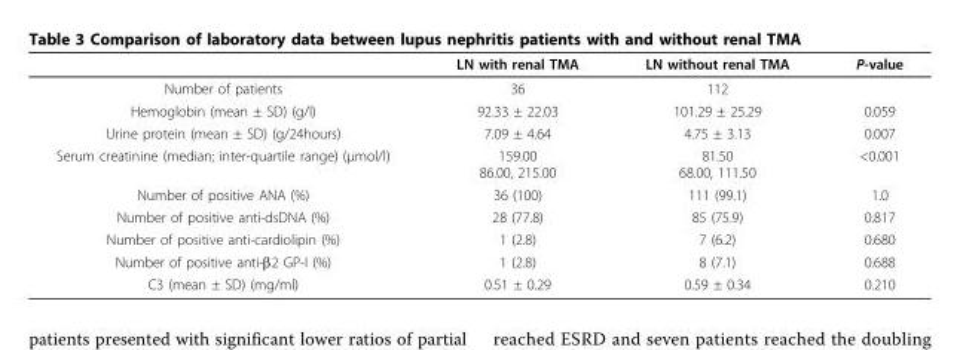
<table><thead><tr><td></td><td>LN with renal TMA</td><td>LN without renal TMA</td><td>P-value</td></tr></thead><tbody><tr><td>Number of patients</td><td>36</td><td>112</td><td></td></tr><tr><td>Hemoglobin (mean ± SD) (g/l)</td><td>92.33 ± 22.03</td><td>101.29 ± 25.29</td><td>0.059</td></tr><tr><td>Urine protein (mean ± SD) (g/24hours)</td><td>7.09 ± 4.64</td><td>4.75 ± 3.13</td><td>0.007</td></tr><tr><td>Serum creatinine (median; inter-quartile range) (μmol/l)</td><td>159.00 86.00, 215.00</td><td>81.50 68.00, 111.50</td><td>&lt;0.001</td></tr><tr><td>Number of positive ANA (%)</td><td>36 (100)</td><td>111 (99.1)</td><td>1.0</td></tr><tr><td>Number of positive anti-dsDNA (%)</td><td>28 (77.8)</td><td>85 (75.9)</td><td>0.817</td></tr><tr><td>Number of positive anti-cardiolipin (%)</td><td>1 (2.8)</td><td>7 (6.2)</td><td>0.680</td></tr><tr><td>Number of positive anti-β2 GP-I (%)</td><td>1 (2.8)</td><td>8 (7.1)</td><td>0.688</td></tr><tr><td>C3 (mean ± SD) (mg/ml)</td><td>0.51 ± 0.29</td><td>0.59 ± 0.34</td><td>0.210</td></tr></tbody></table>